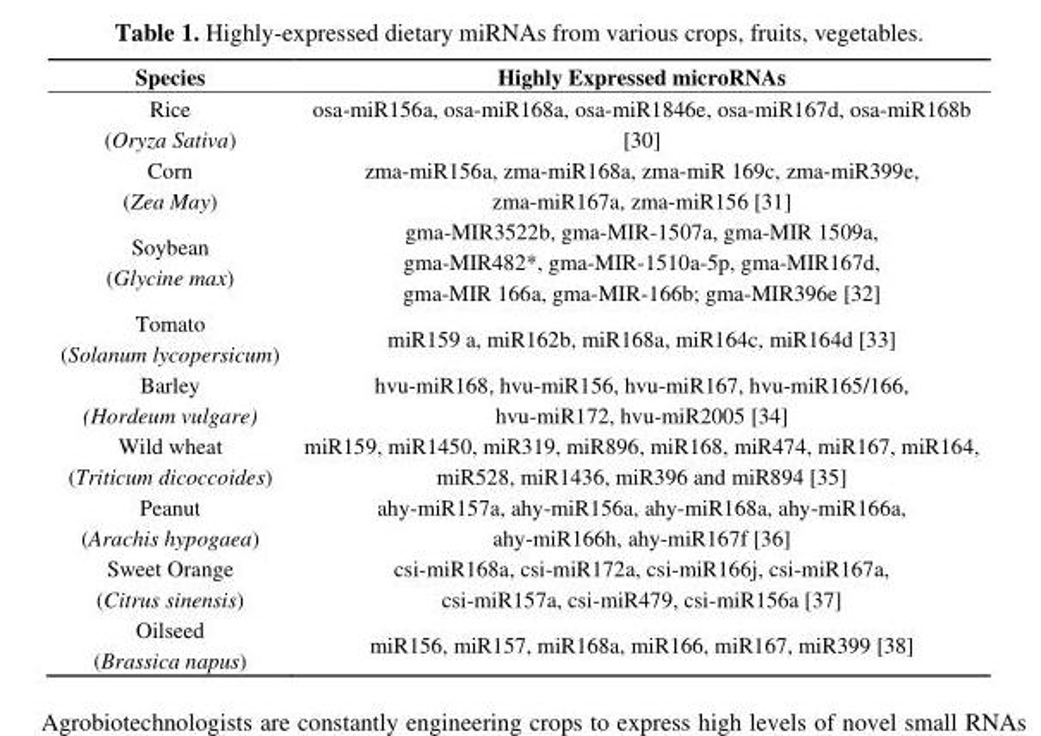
<table><thead><tr><td>Species</td><td>Highly Expressed microRNAs</td></tr></thead><tbody><tr><td>Rice (Oryza Sativa)</td><td>osa-miR156a, osa-miR168a, osa-miR1846e, osa-miR167d, osa-miR168b [30]</td></tr><tr><td>Corn (Zea May)</td><td>zma-miR156a, zma-miR168a, zma-miR 169c, zma-miR399e, zma-miR167a, zma-miR156 [31]</td></tr><tr><td>Soybean (Glycine max)</td><td>gma-MIR3522b, gma-MIR-1507a, gma-MIR 1509a, gma-MIR482*, gma-MIR-1510a-5p, gma-MIR167d, gma-MIR 166a, gma-MIR-166b; gma-MIR396e [32]</td></tr><tr><td>Tomato (Solanum lycopersicum)</td><td>miR159 a, miR162b, miR168a, miR164c, miR164d [33]</td></tr><tr><td>Barley (Hordeum vulgare)</td><td>hvu-miR168, hvu-miR156, hvu-miR167, hvu-miR165/166, hvu-miR172, hvu-miR2005 [34]</td></tr><tr><td>Wild wheat (Triticum dicoccoides)</td><td>miR159, miR1450, miR319, miR896, miR168, miR474, miR167, miR164, miR528, miR1436, miR396 and miR894 [35]</td></tr><tr><td>Peanut (Arachis hypogaea)</td><td>ahy-miR157a, ahy-miR156a, ahy-miR168a, ahy-miR166a, ahy-miR166h, ahy-miR167f [36]</td></tr><tr><td>Sweet Orange (Citrus sinensis)</td><td>csi-miR168a, csi-miR172a, csi-miR166j, csi-miR167a, csi-miR157a, csi-miR479, csi-miR156a [37]</td></tr><tr><td>Oilseed (Brassica napus)</td><td>miR156, miR157, miR168a, miR166, miR167, miR399 [38]</td></tr></tbody></table>